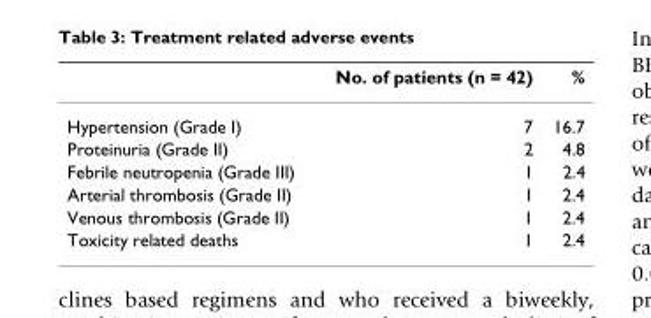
<table><thead><tr><td></td><td>No. of patients (n = 42)</td><td>%</td></tr></thead><tbody><tr><td>Hypertension (Grade I)</td><td>7</td><td>16.7</td></tr><tr><td>Proteinuria (Grade II)</td><td>2</td><td>4.8</td></tr><tr><td>Febrile neutropenia (Grade III)</td><td>1</td><td>2.4</td></tr><tr><td>Arterial thrombosis (Grade II)</td><td>1</td><td>2.4</td></tr><tr><td>Venous thrombosis (Grade II)</td><td>1</td><td>2.4</td></tr><tr><td>Toxicity related deaths</td><td>1</td><td>2.4</td></tr></tbody></table>